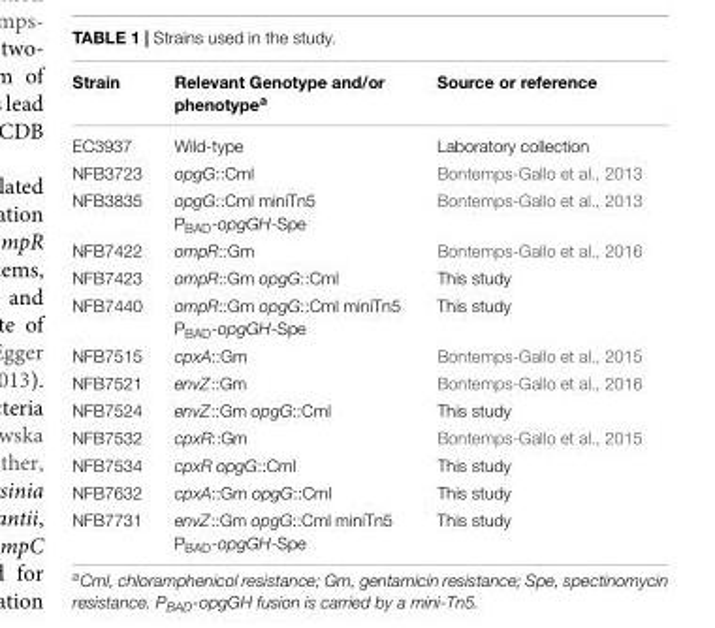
<table><thead><tr><td>Strain</td><td>Relevant Genotype and/or phenotype<sup>a</sup></td><td>Source or reference</td></tr></thead><tbody><tr><td>EC3937</td><td>Wild-type</td><td>Laboratory collection</td></tr><tr><td>NFB3723</td><td>opgG::Cml</td><td>Bontemps-Gallo et al., 2013</td></tr><tr><td>NFB3835</td><td>opgG::Cml miniTn5 P<sub>BAD</sub>-opgGH-Spe</td><td>Bontemps-Gallo et al., 2013</td></tr><tr><td>NFB7422</td><td>ompR::Gm</td><td>Bontemps-Gallo et al., 2016</td></tr><tr><td>NFB7423</td><td>ompR::Gm opgG::Cml</td><td>This study</td></tr><tr><td>NFB7440</td><td>ompR::Gm opgG::Cml miniTn5 P<sub>BAD</sub>-opgGH-Spe</td><td>This study</td></tr><tr><td>NFB7515</td><td>cpxA::Gm</td><td>Bontemps-Gallo et al., 2015</td></tr><tr><td>NFB7521</td><td>envZ::Gm</td><td>Bontemps-Gallo et al., 2016</td></tr><tr><td>NFB7524</td><td>envZ::Gm opgG::Cml</td><td>This study</td></tr><tr><td>NFB7532</td><td>cpxR::Gm</td><td>Bontemps-Gallo et al., 2015</td></tr><tr><td>NFB7534</td><td>cpxR opgG::Cml</td><td>This study</td></tr><tr><td>NFB7632</td><td>cpxA::Gm opgG::Cml</td><td>This study</td></tr><tr><td>NFB7731</td><td>envZ::Gm opgG::Cml miniTn5 P<sub>BAD</sub>-opgGH-Spe</td><td>This study</td></tr></tbody></table>